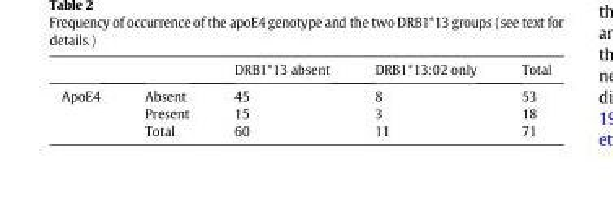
<table><thead><tr><td></td><td></td><td>DRB1*13 absent</td><td>DRB1*13:02 only</td><td>Total</td></tr></thead><tbody><tr><td rowspan="3">ApoE4</td><td>Absent</td><td>45</td><td>8</td><td>53</td></tr><tr><td>Present</td><td>15</td><td>3</td><td>18</td></tr><tr><td>Total</td><td>60</td><td>11</td><td>71</td></tr></tbody></table>